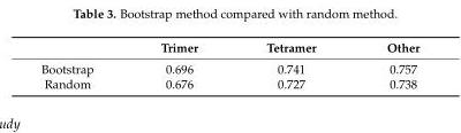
<table><thead><tr><td></td><td>Trimer</td><td>Tetramer</td><td>Other</td></tr></thead><tbody><tr><td>Bootstrap</td><td>0.696</td><td>0.741</td><td>0.757</td></tr><tr><td>Random</td><td>0.676</td><td>0.727</td><td>0.738</td></tr></tbody></table>